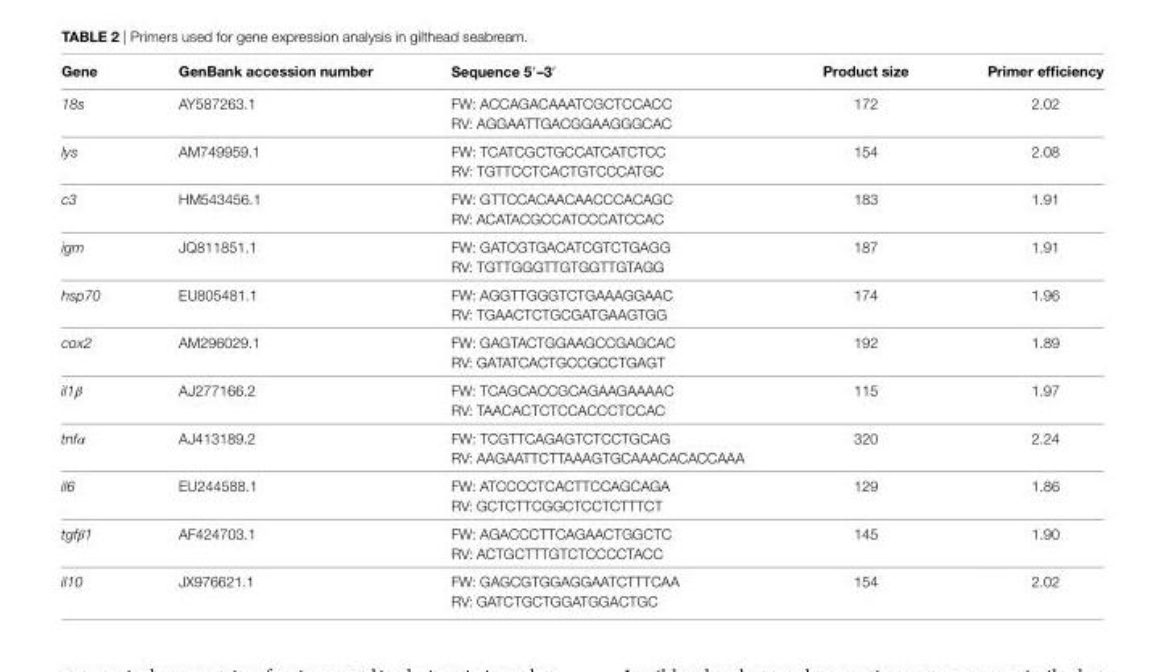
<table><thead><tr><td>gene</td><td>genBank accession number</td><td>sequence 5′–3′</td><td>Product size</td><td>Primer efficiency</td></tr></thead><tbody><tr><td rowspan="2">18s</td><td>AY587263.1</td><td>FW: ACCAGACAAATCGCTCCACC</td><td>172</td><td>2.02</td></tr><tr><td></td><td>RV: AGGAATTGACGGAAGGGCAC</td><td></td><td></td></tr><tr><td rowspan="2">lys</td><td>AM749959.1</td><td>FW: TCATCGCTGCCATCATCTCC</td><td>154</td><td>2.08</td></tr><tr><td></td><td>RV: TGTTCCTCACTGTCCCATGC</td><td></td><td></td></tr><tr><td rowspan="2">c3</td><td>HM543456.1</td><td>FW: GTTCCACAACAACCCACAGC</td><td>183</td><td>1.91</td></tr><tr><td></td><td>RV: ACATACGCCATCCCATCCAC</td><td></td><td></td></tr><tr><td rowspan="2">igm</td><td>JQ811851.1</td><td>FW: GATCGTGACATCGTCTGAGG</td><td>187</td><td>1.91</td></tr><tr><td></td><td>RV: TGTTGGGTTGTGGTTGTAGG</td><td></td><td></td></tr><tr><td rowspan="2">hsp70</td><td>EU805481.1</td><td>FW: AGGTTGGGTCTGAAAGGAAC</td><td>174</td><td>1.96</td></tr><tr><td></td><td>RV: TGAACTCTGCGATGAAGTGG</td><td></td><td></td></tr><tr><td rowspan="2">cox2</td><td>AM296029.1</td><td>FW: GAGTACTGGAAGCCGAGCAC</td><td>192</td><td>1.89</td></tr><tr><td></td><td>RV: GATATCACTGCCGCCTGAGT</td><td></td><td></td></tr><tr><td rowspan="2">il1β</td><td>AJ277166.2</td><td>FW: TCAGCACCGCAGAAGAAAAC</td><td>115</td><td>1.97</td></tr><tr><td></td><td>RV: TAACACTCTCCACCCTCCAC</td><td></td><td></td></tr><tr><td rowspan="2">tnfα</td><td>AJ413189.2</td><td>FW: TCGTTCAGAGTCTCCTGCAG</td><td>320</td><td>2.24</td></tr><tr><td></td><td>RV: AAGAATTCTTAAAGTGCAAACACACCAAA</td><td></td><td></td></tr><tr><td rowspan="2">il6</td><td>EU244588.1</td><td>FW: ATCCCCTCACTTCCAGCAGA</td><td>129</td><td>1.86</td></tr><tr><td></td><td>RV: GCTCTTCGGCTCCTCTTTCT</td><td></td><td></td></tr><tr><td rowspan="2">tgfβ1</td><td>AF424703.1</td><td>FW: AGACCCTTCAGAACTGGCTC</td><td>145</td><td>1.90</td></tr><tr><td></td><td>RV: ACTGCTTTGTCTCCCCTACC</td><td></td><td></td></tr><tr><td rowspan="2">il10</td><td>JX976621.1</td><td>FW: GAGCGTGGAGGAATCTTTCAA</td><td>154</td><td>2.02</td></tr><tr><td></td><td>RV: GATCTGCTGGATGGACTGC</td><td></td><td></td></tr></tbody></table>